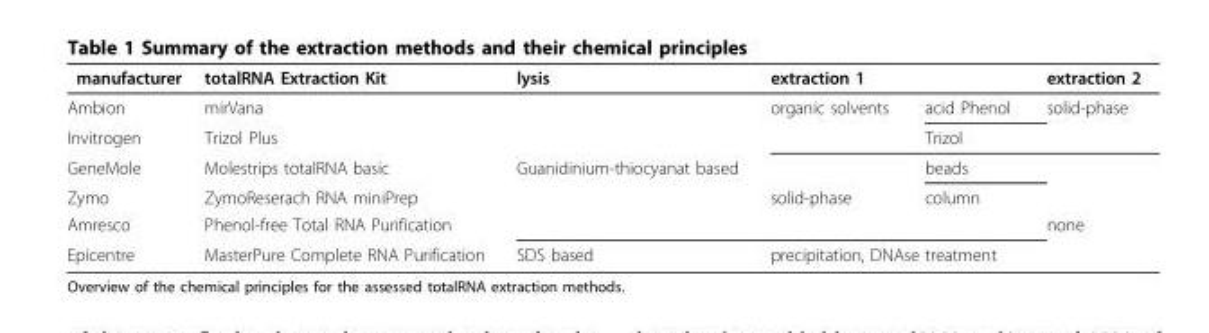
<table><thead><tr><td rowspan="2">manufacturer Ambion</td><td rowspan="2">totalRNA Extraction Kit mirVana</td><td rowspan="2">lysis</td><td colspan="2">extraction 1</td><td rowspan="2">extraction 2 solid-phase</td></tr><tr><td>organic solvents</td><td>acid Phenol</td></tr></thead><tbody><tr><td>Invitrogen</td><td>Trizol Plus</td><td></td><td></td><td>Trizol</td><td></td></tr><tr><td>GeneMole</td><td>Molestrips totalRNA basic</td><td>Guanidinium-thiocyanat based</td><td></td><td>beads</td><td></td></tr><tr><td>Zymo</td><td>ZymoReserach RNA miniPrep</td><td></td><td>solid-phase</td><td>column</td><td></td></tr><tr><td>Amresco</td><td>Phenol-free Total RNA Purification</td><td></td><td></td><td></td><td>none</td></tr><tr><td>Epicentre</td><td>MasterPure Complete RNA Purification</td><td>SDS based</td><td colspan="2">precipitation, DNAse treatment</td><td></td></tr></tbody></table>